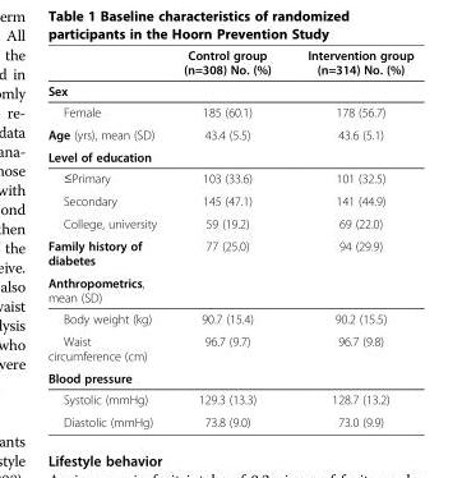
<table><thead><tr><td></td><td>Control group (n=308) No. (%)</td><td>Intervention group (n=314) No. (%)</td></tr></thead><tbody><tr><td colspan="3">Sex</td></tr><tr><td>Female</td><td>185 (60.1)</td><td>178 (56.7)</td></tr><tr><td>Age (yrs), mean (SD)</td><td>43.4 (5.5)</td><td>43.6 (5.1)</td></tr><tr><td colspan="3">Level of education</td></tr><tr><td>≤Primary</td><td>103 (33.6)</td><td>101 (32.5)</td></tr><tr><td>Secondary</td><td>145 (47.1)</td><td>141 (44.9)</td></tr><tr><td>College, university</td><td>59 (19.2)</td><td>69 (22.0)</td></tr><tr><td>Family history of diabetes</td><td>77 (25.0)</td><td>94 (29.9)</td></tr><tr><td colspan="3">Anthropometrics, mean (SD)</td></tr><tr><td>Body weight (kg)</td><td>90.7 (15.4)</td><td>90.2 (15.5)</td></tr><tr><td>Waist circumference (cm)</td><td>96.7 (9.7)</td><td>96.7 (9.8)</td></tr><tr><td colspan="3">Blood pressure</td></tr><tr><td>Systolic (mmHg)</td><td>129.3 (13.3)</td><td>128.7 (13.2)</td></tr><tr><td>Diastolic (mmHg)</td><td>73.8 (9.0)</td><td>73.0 (9.9)</td></tr></tbody></table>